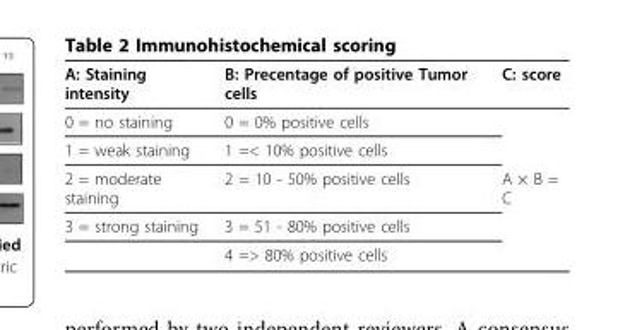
<table><thead><tr><td>A: Staining intensity</td><td>B: Precentage of positive Tumor cells</td><td>C: score</td></tr></thead><tbody><tr><td>0 = no staining</td><td>0 = 0% positive cells</td><td></td></tr><tr><td>1 = weak staining</td><td>1 =&lt; 10% positive cells</td><td></td></tr><tr><td>2 = moderate staining</td><td>2 = 10 - 50% positive cells</td><td>A × B = C</td></tr><tr><td rowspan="2">3 = strong staining</td><td>3 = 51 - 80% positive cells</td><td></td></tr><tr><td>4 =&gt; 80% positive cells</td><td></td></tr></tbody></table>